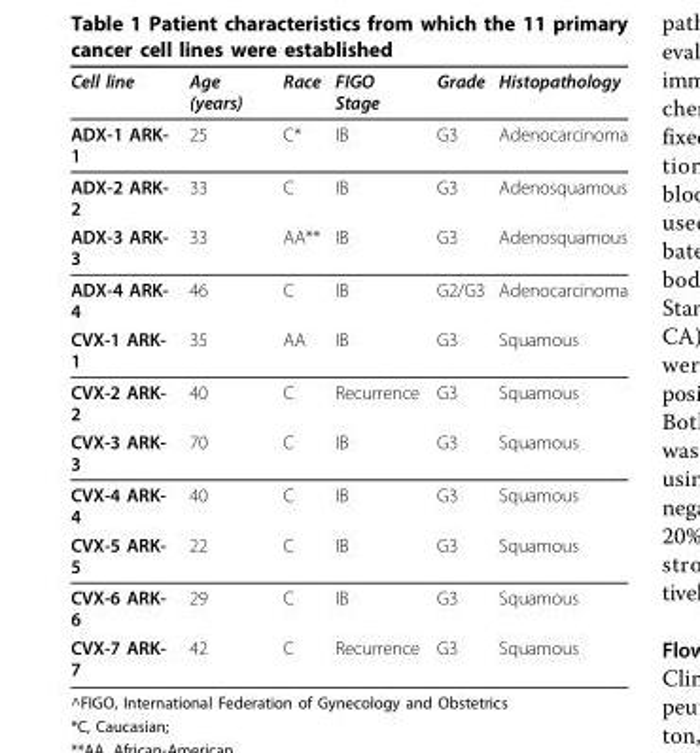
<table><thead><tr><td>Cell line</td><td>Age (years)</td><td>Race</td><td>FIGO Stage</td><td>Grade</td><td>Histopathology</td></tr></thead><tbody><tr><td>ADX-1 ARK- 1</td><td>25</td><td>C*</td><td>IB</td><td>G3</td><td>Adenocarcinoma</td></tr><tr><td>ADX-2 ARK- 2</td><td>33</td><td>C</td><td>IB</td><td>G3</td><td>Adenosquamous</td></tr><tr><td>ADX-3 ARK- 3</td><td>33</td><td>AA**</td><td>IB</td><td>G3</td><td>Adenosquamous</td></tr><tr><td>ADX-4 ARK- 4</td><td>46</td><td>C</td><td>IB</td><td>G2/G3</td><td>Adenocarcinoma</td></tr><tr><td>CVX-1 ARK- 1</td><td>35</td><td>AA</td><td>IB</td><td>G3</td><td>Squamous</td></tr><tr><td>CVX-2 ARK- 2</td><td>40</td><td>C</td><td>Recurrence</td><td>G3</td><td>Squamous</td></tr><tr><td>CVX-3 ARK- 3</td><td>70</td><td>C</td><td>IB</td><td>G3</td><td>Squamous</td></tr><tr><td>CVX-4 ARK- 4</td><td>40</td><td>C</td><td>IB</td><td>G3</td><td>Squamous</td></tr><tr><td>CVX-5 ARK- 5</td><td>22</td><td>C</td><td>IB</td><td>G3</td><td>Squamous</td></tr><tr><td>CVX-6 ARK- 6</td><td>29</td><td>C</td><td>IB</td><td>G3</td><td>Squamous</td></tr><tr><td>CVX-7 ARK- 7</td><td>42</td><td>C</td><td>Recurrence</td><td>G3</td><td>Squamous</td></tr></tbody></table>